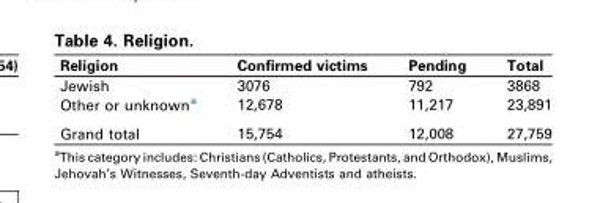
<table><thead><tr><td>Religion</td><td>Confirmed victims</td><td>Pending</td><td>Total</td></tr></thead><tbody><tr><td>Jewish</td><td>3076</td><td>792</td><td>3868</td></tr><tr><td>Other or unknown<sup>a</sup></td><td>12,678</td><td>11,217</td><td>23,891</td></tr><tr><td>Grand total</td><td>15,754</td><td>12,008</td><td>27,759</td></tr></tbody></table>